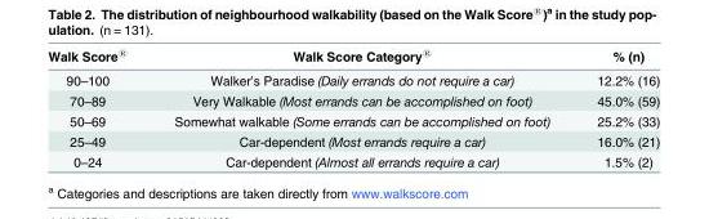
<table><thead><tr><td>Walk Score<sup>®</sup></td><td>Walk Score Category<sup>®</sup></td><td>% (n)</td></tr></thead><tbody><tr><td>90–100</td><td>Walker’s Paradise (Daily errands do not require a car)</td><td>12.2% (16)</td></tr><tr><td>70–89</td><td>Very Walkable (Most errands can be accomplished on foot)</td><td>45.0% (59)</td></tr><tr><td>50–69</td><td>Somewhat walkable (Some errands can be accomplished on foot)</td><td>25.2% (33)</td></tr><tr><td>25–49</td><td>Car-dependent (Most errands require a car)</td><td>16.0% (21)</td></tr><tr><td>0–24</td><td>Car-dependent (Almost all errands require a car)</td><td>1.5% (2)</td></tr></tbody></table>